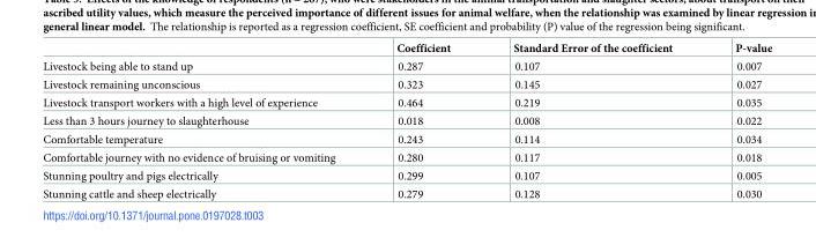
<table><thead><tr><td></td><td>Coefficient</td><td>Standard Error of the coefficient</td><td>P-value</td></tr></thead><tbody><tr><td>Livestock being able to stand up</td><td>0.287</td><td>0.107</td><td>0.007</td></tr><tr><td>Livestock remaining unconscious</td><td>0.323</td><td>0.145</td><td>0.027</td></tr><tr><td>Livestock transport workers with a high level of experience</td><td>0.464</td><td>0.219</td><td>0.035</td></tr><tr><td>Less than 3 hours journey to slaughterhouse</td><td>0.018</td><td>0.008</td><td>0.022</td></tr><tr><td>Comfortable temperature</td><td>0.243</td><td>0.114</td><td>0.034</td></tr><tr><td>Comfortable journey with no evidence of bruising or vomiting</td><td>0.280</td><td>0.117</td><td>0.018</td></tr><tr><td>Stunning poultry and pigs electrically</td><td>0.299</td><td>0.107</td><td>0.005</td></tr><tr><td>Stunning cattle and sheep electrically</td><td>0.279</td><td>0.128</td><td>0.030</td></tr></tbody></table>